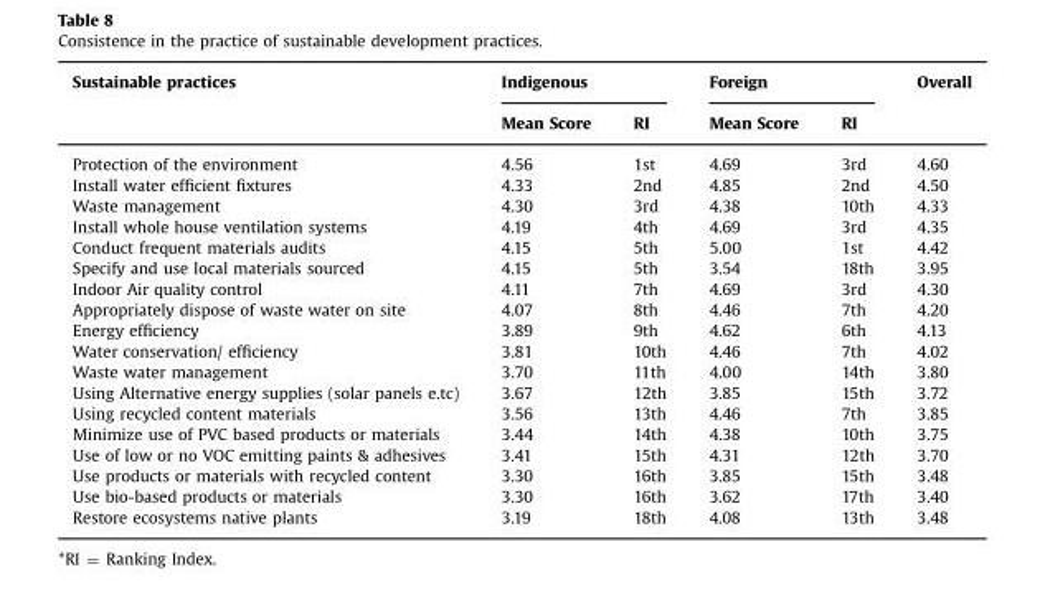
<table><thead><tr><td rowspan="2">Sustainable practices</td><td colspan="2">Indigenous</td><td colspan="2">Foreign</td><td rowspan="2">Overall</td></tr><tr><td>Mean Score</td><td>RI</td><td>Mean Score</td><td>RI</td></tr></thead><tbody><tr><td>Protection of the environment</td><td>4.56</td><td>1st</td><td>4.69</td><td>3rd</td><td>4.60</td></tr><tr><td>Install water efficient fixtures</td><td>4.33</td><td>2nd</td><td>4.85</td><td>2nd</td><td>4.50</td></tr><tr><td>Waste management</td><td>4.30</td><td>3rd</td><td>4.38</td><td>10th</td><td>4.33</td></tr><tr><td>Install whole house ventilation systems</td><td>4.19</td><td>4th</td><td>4.69</td><td>3rd</td><td>4.35</td></tr><tr><td>Conduct frequent materials audits</td><td>4.15</td><td>5th</td><td>5.00</td><td>1st</td><td>4.42</td></tr><tr><td>Specify and use local materials sourced</td><td>4.15</td><td>5th</td><td>3.54</td><td>18th</td><td>3.95</td></tr><tr><td>Indoor Air quality control</td><td>4.11</td><td>7th</td><td>4.69</td><td>3rd</td><td>4.30</td></tr><tr><td>Appropriately dispose of waste water on site</td><td>4.07</td><td>8th</td><td>4.46</td><td>7th</td><td>4.20</td></tr><tr><td>Energy efficiency</td><td>3.89</td><td>9th</td><td>4.62</td><td>6th</td><td>4.13</td></tr><tr><td>Water conservation/ efficiency</td><td>3.81</td><td>10th</td><td>4.46</td><td>7th</td><td>4.02</td></tr><tr><td>Waste water management</td><td>3.70</td><td>11th</td><td>4.00</td><td>14th</td><td>3.80</td></tr><tr><td>Using Alternative energy supplies (solar panels e.tc)</td><td>3.67</td><td>12th</td><td>3.85</td><td>15th</td><td>3.72</td></tr><tr><td>Using recycled content materials</td><td>3.56</td><td>13th</td><td>4.46</td><td>7th</td><td>3.85</td></tr><tr><td>Minimize use of PVC based products or materials</td><td>3.44</td><td>14th</td><td>4.38</td><td>10th</td><td>3.75</td></tr><tr><td>Use of low or no VOC emitting paints &amp; adhesives</td><td>3.41</td><td>15th</td><td>4.31</td><td>12th</td><td>3.70</td></tr><tr><td>Use products or materials with recycled content</td><td>3.30</td><td>16th</td><td>3.85</td><td>15th</td><td>3.48</td></tr><tr><td>Use bio-based products or materials</td><td>3.30</td><td>16th</td><td>3.62</td><td>17th</td><td>3.40</td></tr><tr><td>Restore ecosystems native plants</td><td>3.19</td><td>18th</td><td>4.08</td><td>13th</td><td>3.48</td></tr></tbody></table>